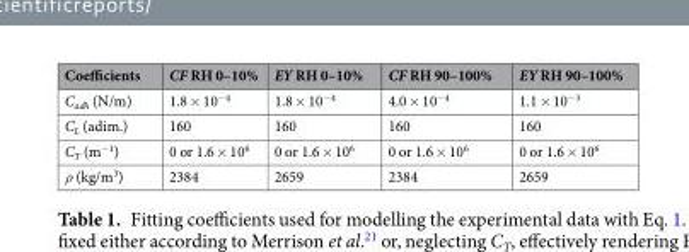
<table><thead><tr><td>Coefficients</td><td>CF RH 0–10%</td><td>EY RH 0–10%</td><td>CF RH 90–100%</td><td>EY RH 90–100%</td></tr></thead><tbody><tr><td>C<sub>adh</sub> (N/m)</td><td>1.8 × 10<sup>−4</sup></td><td>1.8 × 10<sup>−4</sup></td><td>4.0 × 10<sup>−4</sup></td><td>1.1 × 10<sup>−3</sup></td></tr><tr><td>C<sub>L</sub> (adim.)</td><td>160</td><td>160</td><td>160</td><td>160</td></tr><tr><td>C<sub>T</sub> (m<sup>−1</sup>)</td><td>0 or 1.6 × 10<sup>6</sup></td><td>0 or 1.6 × 10<sup>6</sup></td><td>0 or 1.6 × 10<sup>6</sup></td><td>0 or 1.6 × 10<sup>6</sup></td></tr><tr><td>ρ (kg/m<sup>3</sup>)</td><td>2384</td><td>2659</td><td>2384</td><td>2659</td></tr></tbody></table>